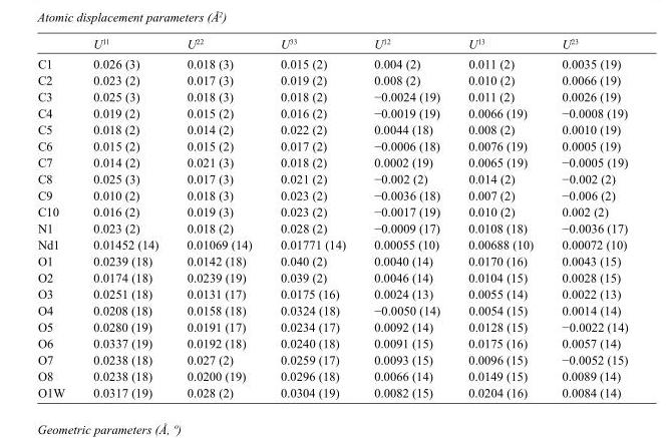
<table><thead><tr><td></td><td>U<sup>11</sup></td><td>U<sup>22</sup></td><td>U<sup>33</sup></td><td>U<sup>12</sup></td><td>U<sup>13</sup></td><td>U<sup>23</sup></td></tr></thead><tbody><tr><td>C1</td><td>0.026 (3)</td><td>0.018 (3)</td><td>0.015 (2)</td><td>0.004 (2)</td><td>0.011 (2)</td><td>0.0035 (19)</td></tr><tr><td>C2</td><td>0.023 (2)</td><td>0.017 (3)</td><td>0.019 (2)</td><td>0.008 (2)</td><td>0.010 (2)</td><td>0.0066 (19)</td></tr><tr><td>C3</td><td>0.025 (3)</td><td>0.018 (3)</td><td>0.018 (2)</td><td>−0.0024 (19)</td><td>0.011 (2)</td><td>0.0026 (19)</td></tr><tr><td>C4</td><td>0.019 (2)</td><td>0.015 (2)</td><td>0.016 (2)</td><td>−0.0019 (19)</td><td>0.0066 (19)</td><td>−0.0008 (19)</td></tr><tr><td>C5</td><td>0.018 (2)</td><td>0.014 (2)</td><td>0.022 (2)</td><td>0.0044 (18)</td><td>0.008 (2)</td><td>0.0010 (19)</td></tr><tr><td>C6</td><td>0.015 (2)</td><td>0.015 (2)</td><td>0.017 (2)</td><td>−0.0006 (18)</td><td>0.0076 (19)</td><td>0.0005 (19)</td></tr><tr><td>C7</td><td>0.014 (2)</td><td>0.021 (3)</td><td>0.018 (2)</td><td>0.0002 (19)</td><td>0.0065 (19)</td><td>−0.0005 (19)</td></tr><tr><td>C8</td><td>0.025 (3)</td><td>0.017 (3)</td><td>0.021 (2)</td><td>−0.002 (2)</td><td>0.014 (2)</td><td>−0.002 (2)</td></tr><tr><td>C9</td><td>0.010 (2)</td><td>0.018 (3)</td><td>0.023 (2)</td><td>−0.0036 (18)</td><td>0.007 (2)</td><td>−0.006 (2)</td></tr><tr><td>C10</td><td>0.016 (2)</td><td>0.019 (3)</td><td>0.023 (2)</td><td>−0.0017 (19)</td><td>0.010 (2)</td><td>0.002 (2)</td></tr><tr><td>N1</td><td>0.023 (2)</td><td>0.018 (2)</td><td>0.028 (2)</td><td>−0.0009 (17)</td><td>0.0108 (18)</td><td>−0.0036 (17)</td></tr><tr><td>Nd1</td><td>0.01452 (14)</td><td>0.01069 (14)</td><td>0.01771 (14)</td><td>0.00055 (10)</td><td>0.00688 (10)</td><td>0.00072 (10)</td></tr><tr><td>O1</td><td>0.0239 (18)</td><td>0.0142 (18)</td><td>0.040 (2)</td><td>0.0040 (14)</td><td>0.0170 (16)</td><td>0.0043 (15)</td></tr><tr><td>O2</td><td>0.0174 (18)</td><td>0.0239 (19)</td><td>0.039 (2)</td><td>0.0046 (14)</td><td>0.0104 (15)</td><td>0.0028 (15)</td></tr><tr><td>O3</td><td>0.0251 (18)</td><td>0.0131 (17)</td><td>0.0175 (16)</td><td>0.0024 (13)</td><td>0.0055 (14)</td><td>0.0022 (13)</td></tr><tr><td>O4</td><td>0.0208 (18)</td><td>0.0158 (18)</td><td>0.0324 (18)</td><td>−0.0050 (14)</td><td>0.0054 (15)</td><td>0.0014 (14)</td></tr><tr><td>O5</td><td>0.0280 (19)</td><td>0.0191 (17)</td><td>0.0234 (17)</td><td>0.0092 (14)</td><td>0.0128 (15)</td><td>−0.0022 (14)</td></tr><tr><td>O6</td><td>0.0337 (19)</td><td>0.0192 (18)</td><td>0.0240 (18)</td><td>0.0091 (15)</td><td>0.0175 (16)</td><td>0.0057 (14)</td></tr><tr><td>O7</td><td>0.0238 (18)</td><td>0.027 (2)</td><td>0.0259 (17)</td><td>0.0093 (15)</td><td>0.0096 (15)</td><td>−0.0052 (15)</td></tr><tr><td>O8</td><td>0.0238 (18)</td><td>0.0200 (19)</td><td>0.0296 (18)</td><td>0.0066 (14)</td><td>0.0149 (15)</td><td>0.0089 (14)</td></tr><tr><td>O1W</td><td>0.0317 (19)</td><td>0.028 (2)</td><td>0.0304 (19)</td><td>0.0082 (15)</td><td>0.0204 (16)</td><td>0.0084 (14)</td></tr></tbody></table>